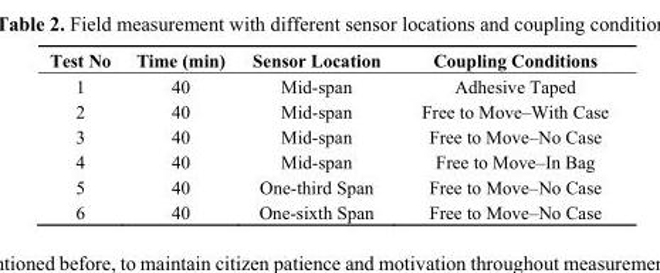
<table><thead><tr><td>Test No</td><td>Time (min)</td><td>Sensor Location</td><td>Coupling Conditions</td></tr></thead><tbody><tr><td>1</td><td>40</td><td>Mid-span</td><td>Adhesive Taped</td></tr><tr><td>2</td><td>40</td><td>Mid-span</td><td>Free to Move–With Case</td></tr><tr><td>3</td><td>40</td><td>Mid-span</td><td>Free to Move–No Case</td></tr><tr><td>4</td><td>40</td><td>Mid-span</td><td>Free to Move–In Bag</td></tr><tr><td>5</td><td>40</td><td>One-third Span</td><td>Free to Move–No Case</td></tr><tr><td>6</td><td>40</td><td>One-sixth Span</td><td>Free to Move–No Case</td></tr></tbody></table>